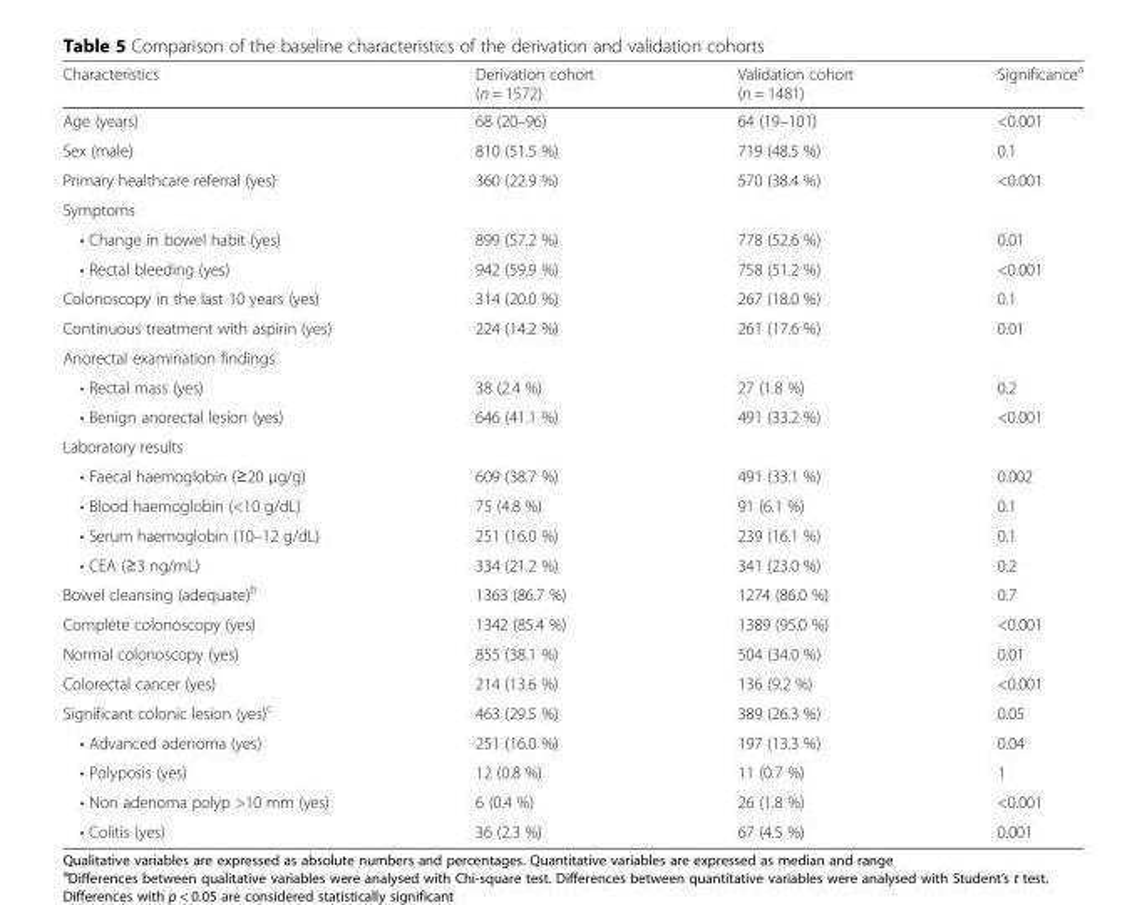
<table><thead><tr><td>Characteristics</td><td>Derivation cohort (n = 1572)</td><td>Validation cohort (n = 1481)</td><td>Significance<sup>a</sup></td></tr></thead><tbody><tr><td>Age (years)</td><td>68 (20–96)</td><td>64 (19–101)</td><td>&lt;0.001</td></tr><tr><td>Sex (male)</td><td>810 (51.5 %)</td><td>719 (48.5 %)</td><td>0.1</td></tr><tr><td>Primary healthcare referral (yes)</td><td>360 (22.9 %)</td><td>570 (38.4 %)</td><td>&lt;0.001</td></tr><tr><td colspan="4">Symptoms</td></tr><tr><td>• Change in bowel habit (yes)</td><td>899 (57.2 %)</td><td>778 (52.6 %)</td><td>0.01</td></tr><tr><td>• Rectal bleeding (yes)</td><td>942 (59.9 %)</td><td>758 (51.2 %)</td><td>&lt;0.001</td></tr><tr><td>Colonoscopy in the last 10 years (yes)</td><td>314 (20.0 %)</td><td>267 (18.0 %)</td><td>0.1</td></tr><tr><td>Continuous treatment with aspirin (yes)</td><td>224 (14.2 %)</td><td>261 (17.6 %)</td><td>0.01</td></tr><tr><td colspan="4">Anorectal examination findings</td></tr><tr><td>• Rectal mass (yes)</td><td>38 (2.4 %)</td><td>27 (1.8 %)</td><td>0.2</td></tr><tr><td>• Benign anorectal lesion (yes)</td><td>646 (41.1 %)</td><td>491 (33.2 %)</td><td>&lt;0.001</td></tr><tr><td colspan="4">Laboratory results</td></tr><tr><td>• Faecal haemoglobin (≥20 μg/g)</td><td>609 (38.7 %)</td><td>491 (33.1 %)</td><td>0.002</td></tr><tr><td>• Blood haemoglobin (&lt;10 g/dL)</td><td>75 (4.8 %)</td><td>91 (6.1 %)</td><td>0.1</td></tr><tr><td>• Serum haemoglobin (10–12 g/dL)</td><td>251 (16.0 %)</td><td>239 (16.1 %)</td><td>0.1</td></tr><tr><td>• CEA (≥3 ng/mL)</td><td>334 (21.2 %)</td><td>341 (23.0 %)</td><td>0.2</td></tr><tr><td>Bowel cleansing (adequate)<sup>b</sup></td><td>1363 (86.7 %)</td><td>1274 (86.0 %)</td><td>0.7</td></tr><tr><td>Complete colonoscopy (yes)</td><td>1342 (85.4 %)</td><td>1389 (95.0 %)</td><td>&lt;0.001</td></tr><tr><td>Normal colonoscopy (yes)</td><td>855 (38.1 %)</td><td>504 (34.0 %)</td><td>0.01</td></tr><tr><td>Colorectal cancer (yes)</td><td>214 (13.6 %)</td><td>136 (9.2 %)</td><td>&lt;0.001</td></tr><tr><td>Significant colonic lesion (yes)<sup>c</sup></td><td>463 (29.5 %)</td><td>389 (26.3 %)</td><td>0.05</td></tr><tr><td>• Advanced adenoma (yes)</td><td>251 (16.0 %)</td><td>197 (13.3 %)</td><td>0.04</td></tr><tr><td>• Polyposis (yes)</td><td>12 (0.8 %)</td><td>11 (0.7 %)</td><td>1</td></tr><tr><td>• Non adenoma polyp &gt;10 mm (yes)</td><td>6 (0.4 %)</td><td>26 (1.8 %)</td><td>&lt;0.001</td></tr><tr><td>• Colitis (yes)</td><td>36 (2.3 %)</td><td>67 (4.5 %)</td><td>0.001</td></tr></tbody></table>